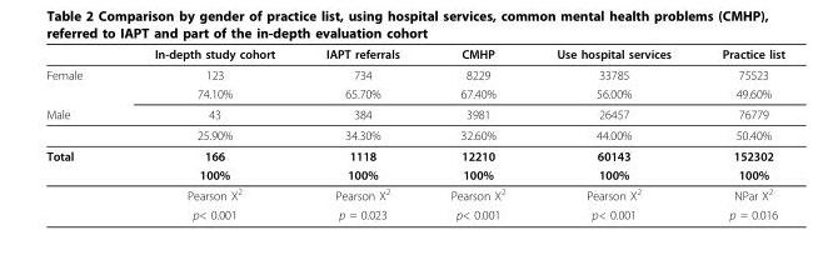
<table><thead><tr><td></td><td>In-depth study cohort</td><td>IAPT referrals</td><td>CMHP</td><td>Use hospital services</td><td>Practice list</td></tr></thead><tbody><tr><td rowspan="2">Female</td><td>123</td><td>734</td><td>8229</td><td>33785</td><td>75523</td></tr><tr><td>74.10%</td><td>65.70%</td><td>67.40%</td><td>56.00%</td><td>49.60%</td></tr><tr><td rowspan="2">Male</td><td>43</td><td>384</td><td>3981</td><td>26457</td><td>76779</td></tr><tr><td>25.90%</td><td>34.30%</td><td>32.60%</td><td>44.00%</td><td>50.40%</td></tr><tr><td rowspan="4">Total</td><td>166</td><td>1118</td><td>12210</td><td>60143</td><td>152302</td></tr><tr><td>100%</td><td>100%</td><td>100%</td><td>100%</td><td>100%</td></tr><tr><td>Pearson X<sup>2</sup></td><td>Pearson X<sup>2</sup></td><td>Pearson X<sup>2</sup></td><td>Pearson X<sup>2</sup></td><td>NPar X<sup>2</sup></td></tr><tr><td>p&lt; 0.001</td><td>p = 0.023</td><td>p&lt; 0.001</td><td>p&lt; 0.001</td><td>p = 0.016</td></tr></tbody></table>